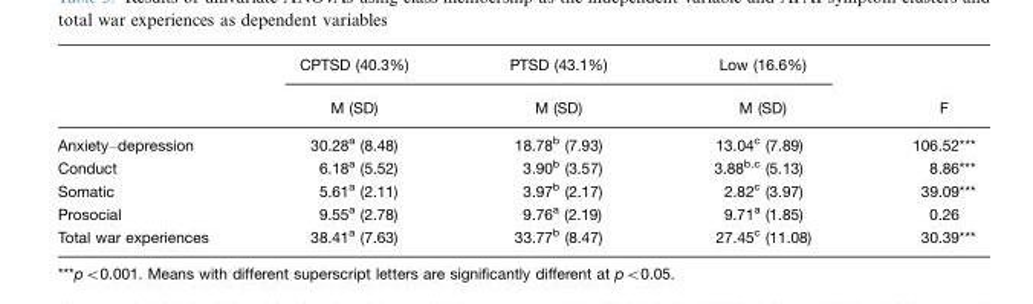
<table><thead><tr><td rowspan="2"></td><td rowspan="2">CPTSD (40.3%) M (SD)</td><td rowspan="2">PTSD (43.1%) M (SD)</td><td rowspan="2">Low (16.6%) M (SD)</td><td rowspan="2">F</td></tr><tr></tr></thead><tbody><tr><td>Anxiety–depression</td><td>30.28<sup>a</sup> (8.48)</td><td>18.78<sup>b</sup> (7.93)</td><td>13.04<sup>c</sup> (7.89)</td><td>106.52***</td></tr><tr><td>Conduct</td><td>6.18<sup>a</sup> (5.52)</td><td>3.90<sup>b</sup> (3.57)</td><td>3.88<sup>b,c</sup> (5.13)</td><td>8.86***</td></tr><tr><td>Somatic</td><td>5.61<sup>a</sup> (2.11)</td><td>3.97<sup>b</sup> (2.17)</td><td>2.82<sup>c</sup> (3.97)</td><td>39.09***</td></tr><tr><td>Prosocial</td><td>9.55<sup>a</sup> (2.78)</td><td>9.76<sup>a</sup> (2.19)</td><td>9.71<sup>a</sup> (1.85)</td><td>0.26</td></tr><tr><td>Total war experiences</td><td>38.41<sup>a</sup> (7.63)</td><td>33.77<sup>b</sup> (8.47)</td><td>27.45<sup>c</sup> (11.08)</td><td>30.39***</td></tr></tbody></table>